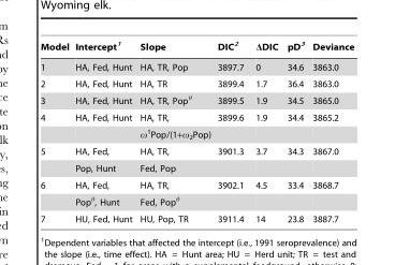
<table><thead><tr><td>Model</td><td>Intercept<sup>1</sup></td><td>Slope</td><td>DIC<sup>2</sup></td><td>ΔDIC</td><td>pD<sup>3</sup></td><td>Deviance</td></tr></thead><tbody><tr><td>1</td><td>HA, Fed, Hunt</td><td>HA, TR, Pop</td><td>3897.7</td><td>0</td><td>34.6</td><td>3863.0</td></tr><tr><td>2</td><td>HA, Fed, Hunt</td><td>HA, TR</td><td>3899.4</td><td>1.7</td><td>36.4</td><td>3863.0</td></tr><tr><td>3</td><td>HA, Fed, Hunt</td><td>HA, TR, Pop<sup>θ</sup></td><td>3899.5</td><td>1.9</td><td>34.5</td><td>3865.0</td></tr><tr><td rowspan="2">4</td><td>HA, Fed, Hunt</td><td>HA, TR,</td><td>3899.6</td><td>1.9</td><td>34.4</td><td>3865.2</td></tr><tr><td></td><td>ω<sup>1</sup>Pop/(1+ω<sub>2</sub>Pop)</td><td></td><td></td><td></td><td></td></tr><tr><td rowspan="2">5</td><td>HA, Fed,</td><td>HA, TR,</td><td>3901.3</td><td>3.7</td><td>34.3</td><td>3867.0</td></tr><tr><td>Pop, Hunt</td><td>Fed, Pop</td><td></td><td></td><td></td><td></td></tr><tr><td rowspan="2">6</td><td>HA, Fed,</td><td>HA, TR,</td><td>3902.1</td><td>4.5</td><td>33.4</td><td>3868.7</td></tr><tr><td>Pop<sup>θ</sup>, Hunt</td><td>Fed, Pop<sup>θ</sup></td><td></td><td></td><td></td><td></td></tr><tr><td>7</td><td>HU, Fed, Hunt</td><td>HU, Pop, TR</td><td>3911.4</td><td>14</td><td>23.8</td><td>3887.7</td></tr></tbody></table>